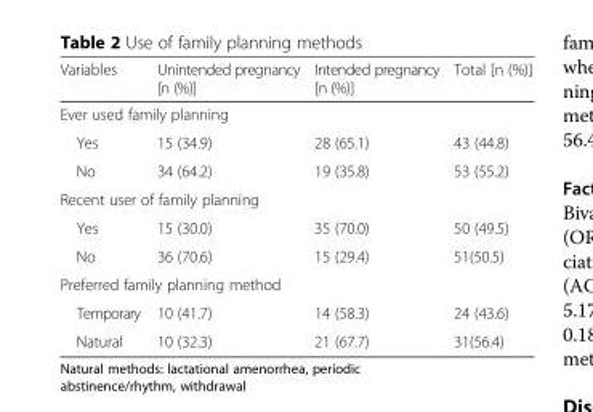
<table><thead><tr><td>Variables</td><td>Unintended pregnancy [n (%)]</td><td>Intended pregnancy [n (%)]</td><td>Total [n (%)]</td></tr></thead><tbody><tr><td colspan="4">Ever used family planning</td></tr><tr><td>Yes</td><td>15 (34.9)</td><td>28 (65.1)</td><td>43 (44.8)</td></tr><tr><td>No</td><td>34 (64.2)</td><td>19 (35.8)</td><td>53 (55.2)</td></tr><tr><td colspan="4">Recent user of family planning</td></tr><tr><td>Yes</td><td>15 (30.0)</td><td>35 (70.0)</td><td>50 (49.5)</td></tr><tr><td>No</td><td>36 (70.6)</td><td>15 (29.4)</td><td>51(50.5)</td></tr><tr><td colspan="4">Preferred family planning method</td></tr><tr><td>Temporary</td><td>10 (41.7)</td><td>14 (58.3)</td><td>24 (43.6)</td></tr><tr><td>Natural</td><td>10 (32.3)</td><td>21 (67.7)</td><td>31(56.4)</td></tr></tbody></table>